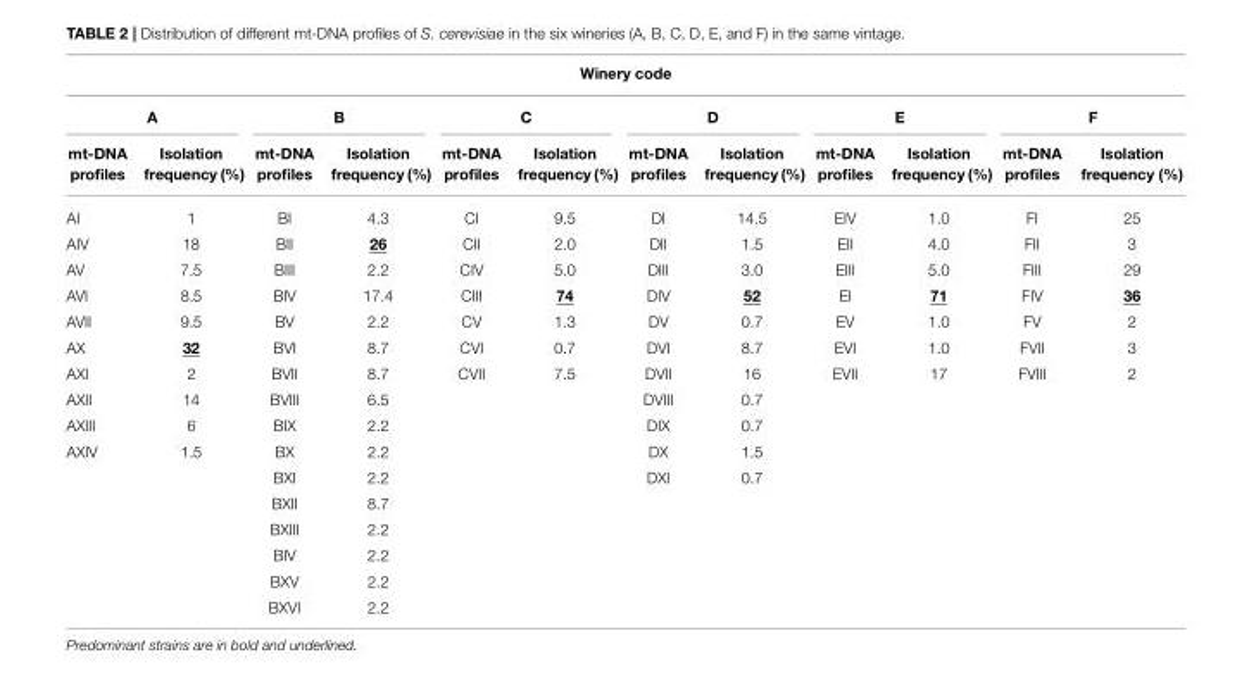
<table><thead><tr><td colspan="12">Winery code</td></tr><tr><td colspan="2">A</td><td colspan="2">B</td><td colspan="2">C</td><td colspan="2">D</td><td colspan="2">E</td><td colspan="2">F</td></tr><tr><td>mt-DNA profiles</td><td>Isolation frequency (%)</td><td>mt-DNA profiles</td><td>Isolation frequency (%)</td><td>mt-DNA profiles</td><td>Isolation frequency (%)</td><td>mt-DNA profiles</td><td>Isolation frequency (%)</td><td>mt-DNA profiles</td><td>Isolation frequency (%)</td><td>mt-DNA profiles</td><td>Isolation frequency (%)</td></tr></thead><tbody><tr><td>AI</td><td>1</td><td>BI</td><td>4.3</td><td>CI</td><td>9.5</td><td>DI</td><td>14.5</td><td>EIV</td><td>1.0</td><td>FI</td><td>25</td></tr><tr><td>AIV</td><td>18</td><td>BII</td><td>26</td><td>CII</td><td>2.0</td><td>DII</td><td>1.5</td><td>EII</td><td>4.0</td><td>FII</td><td>3</td></tr><tr><td>AV</td><td>7.5</td><td>BIII</td><td>2.2</td><td>CIV</td><td>5.0</td><td>DIII</td><td>3.0</td><td>EIII</td><td>5.0</td><td>FIII</td><td>29</td></tr><tr><td>AVI</td><td>8.5</td><td>BIV</td><td>17.4</td><td>CIII</td><td>74</td><td>DIV</td><td>52</td><td>EI</td><td>71</td><td>FIV</td><td>36</td></tr><tr><td>AVII</td><td>9.5</td><td>BV</td><td>2.2</td><td>CV</td><td>1.3</td><td>DV</td><td>0.7</td><td>EV</td><td>1.0</td><td>FV</td><td>2</td></tr><tr><td>AX</td><td>32</td><td>BVI</td><td>8.7</td><td>CVI</td><td>0.7</td><td>DVI</td><td>8.7</td><td>EVI</td><td>1.0</td><td>FVII</td><td>3</td></tr><tr><td>AXI</td><td>2</td><td>BVII</td><td>8.7</td><td>CVII</td><td>7.5</td><td>DVII</td><td>16</td><td>EVII</td><td>17</td><td>FVIII</td><td>2</td></tr><tr><td>AXII</td><td>14</td><td>BVIII</td><td>6.5</td><td></td><td></td><td>DVIII</td><td>0.7</td><td></td><td></td><td></td><td></td></tr><tr><td>AXIII</td><td>6</td><td>BIX</td><td>2.2</td><td></td><td></td><td>DIX</td><td>0.7</td><td></td><td></td><td></td><td></td></tr><tr><td rowspan="7">AXIV</td><td>1.5</td><td>BX</td><td>2.2</td><td></td><td></td><td>DX</td><td>1.5</td><td></td><td></td><td></td><td></td></tr><tr><td></td><td>BXI</td><td>2.2</td><td></td><td></td><td>DXI</td><td>0.7</td><td></td><td></td><td></td><td></td></tr><tr><td></td><td>BXII</td><td>8.7</td><td></td><td></td><td></td><td></td><td></td><td></td><td></td><td></td></tr><tr><td></td><td>BXIII</td><td>2.2</td><td></td><td></td><td></td><td></td><td></td><td></td><td></td><td></td></tr><tr><td></td><td>BIV</td><td>2.2</td><td></td><td></td><td></td><td></td><td></td><td></td><td></td><td></td></tr><tr><td></td><td>BXV</td><td>2.2</td><td></td><td></td><td></td><td></td><td></td><td></td><td></td><td></td></tr><tr><td></td><td>BXVI</td><td>2.2</td><td></td><td></td><td></td><td></td><td></td><td></td><td></td><td></td></tr></tbody></table>